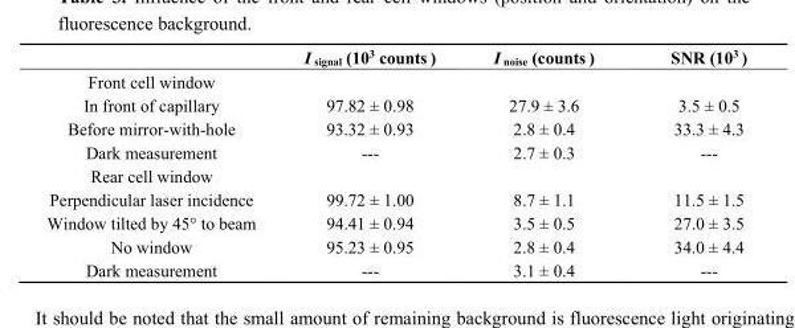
<table><thead><tr><td></td><td>I <sub>signal</sub> (10<sup>3</sup> counts )</td><td>I <sub>noise</sub> (counts )</td><td>SNR (10<sup>3</sup> )</td></tr></thead><tbody><tr><td colspan="4">Front cell window</td></tr><tr><td>In front of capillary</td><td>97.82 ± 0.98</td><td>27.9 ± 3.6</td><td>3.5 ± 0.5</td></tr><tr><td>Before mirror-with-hole</td><td>93.32 ± 0.93</td><td>2.8 ± 0.4</td><td>33.3 ± 4.3</td></tr><tr><td>Dark measurement</td><td>---</td><td>2.7 ± 0.3</td><td>---</td></tr><tr><td colspan="4">Rear cell window</td></tr><tr><td>Perpendicular laser incidence</td><td>99.72 ± 1.00</td><td>8.7 ± 1.1</td><td>11.5 ± 1.5</td></tr><tr><td>Window tilted by 45° to beam</td><td>94.41 ± 0.94</td><td>3.5 ± 0.5</td><td>27.0 ± 3.5</td></tr><tr><td>No window</td><td>95.23 ± 0.95</td><td>2.8 ± 0.4</td><td>34.0 ± 4.4</td></tr><tr><td>Dark measurement</td><td>---</td><td>3.1 ± 0.4</td><td>---</td></tr></tbody></table>